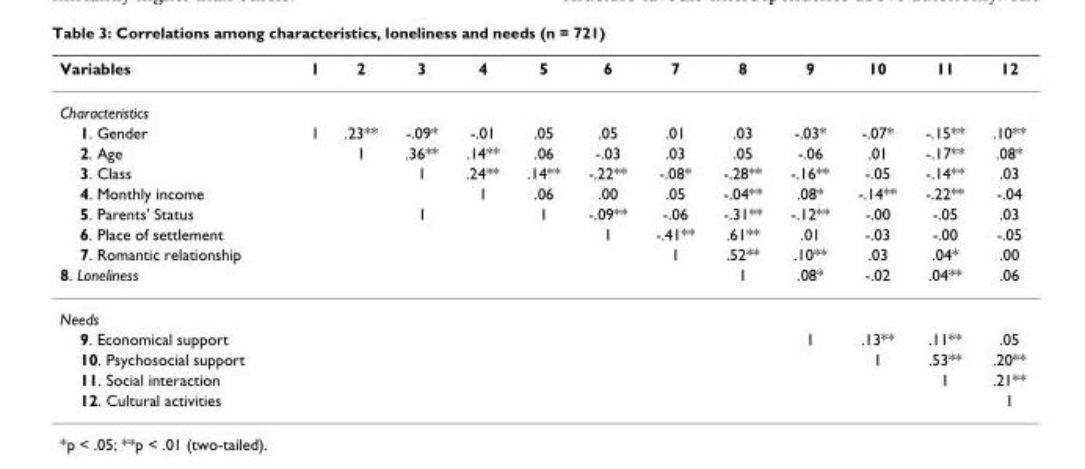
<table><thead><tr><td>Variables</td><td>1</td><td>2</td><td>3</td><td>4</td><td>5</td><td>6</td><td>7</td><td>8</td><td>9</td><td>10</td><td>11</td><td>12</td></tr></thead><tbody><tr><td colspan="13">Characteristics</td></tr><tr><td>1. Gender</td><td>1</td><td>.23**</td><td>-.09*</td><td>-.01</td><td>.05</td><td>.05</td><td>.01</td><td>.03</td><td>-.03*</td><td>-.07*</td><td>-.15**</td><td>.10**</td></tr><tr><td>2. Age</td><td></td><td>1</td><td>.36**</td><td>.14**</td><td>.06</td><td>-.03</td><td>.03</td><td>.05</td><td>-.06</td><td>.01</td><td>-.17**</td><td>.08*</td></tr><tr><td>3. Class</td><td></td><td></td><td>1</td><td>.24**</td><td>.14**</td><td>-.22**</td><td>-.08*</td><td>-.28**</td><td>-.16**</td><td>-.05</td><td>-.14**</td><td>.03</td></tr><tr><td>4. Monthly income</td><td></td><td></td><td></td><td>1</td><td>.06</td><td>.00</td><td>.05</td><td>-.04**</td><td>.08*</td><td>-.14**</td><td>-.22**</td><td>-.04</td></tr><tr><td>5. Parents&#x27; Status</td><td></td><td></td><td>1</td><td></td><td>1</td><td>-.09**</td><td>-.06</td><td>-.31**</td><td>-.12**</td><td>-.00</td><td>-.05</td><td>.03</td></tr><tr><td>6. Place of settlement</td><td></td><td></td><td></td><td></td><td></td><td>1</td><td>-.41**</td><td>.61**</td><td>.01</td><td>-.03</td><td>-.00</td><td>-.05</td></tr><tr><td>7. Romantic relationship</td><td></td><td></td><td></td><td></td><td></td><td></td><td>1</td><td>.52**</td><td>.10**</td><td>.03</td><td>.04*</td><td>.00</td></tr><tr><td>8. Loneliness</td><td></td><td></td><td></td><td></td><td></td><td></td><td></td><td>1</td><td>.08*</td><td>-.02</td><td>.04**</td><td>.06</td></tr><tr><td colspan="13">Needs</td></tr><tr><td>9. Economical support</td><td></td><td></td><td></td><td></td><td></td><td></td><td></td><td></td><td>1</td><td>.13**</td><td>.11**</td><td>.05</td></tr><tr><td>10. Psychosocial support</td><td></td><td></td><td></td><td></td><td></td><td></td><td></td><td></td><td></td><td>1</td><td>.53**</td><td>.20**</td></tr><tr><td>11. Social interaction</td><td></td><td></td><td></td><td></td><td></td><td></td><td></td><td></td><td></td><td></td><td>1</td><td>.21**</td></tr><tr><td>12. Cultural activities</td><td></td><td></td><td></td><td></td><td></td><td></td><td></td><td></td><td></td><td></td><td></td><td>1</td></tr></tbody></table>